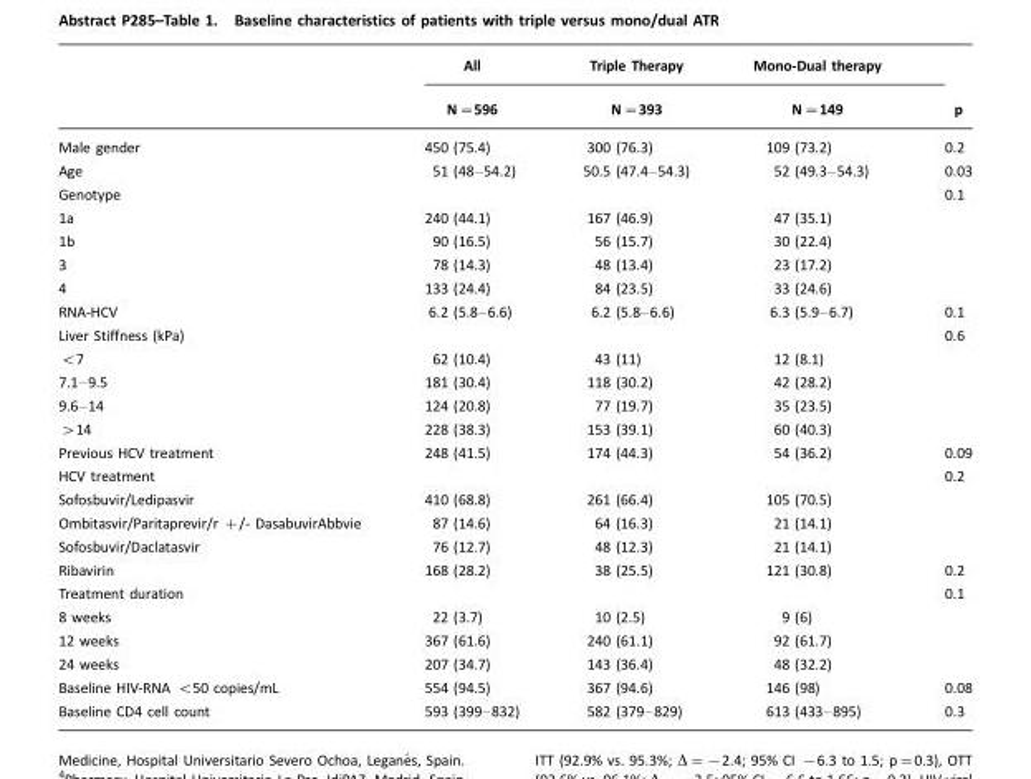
<table><thead><tr><td rowspan="2"></td><td rowspan="2">All N=596</td><td rowspan="2">Triple Therapy N=393</td><td rowspan="2">Mono-Dual therapy N=149</td><td rowspan="2">p</td></tr><tr></tr></thead><tbody><tr><td>Male gender</td><td>450 (75.4)</td><td>300 (76.3)</td><td>109 (73.2)</td><td>0.2</td></tr><tr><td>Age</td><td>51 (48–54.2)</td><td>50.5 (47.4–54.3)</td><td>52 (49.3–54.3)</td><td>0.03</td></tr><tr><td>Genotype</td><td></td><td></td><td></td><td>0.1</td></tr><tr><td>1a</td><td>240 (44.1)</td><td>167 (46.9)</td><td>47 (35.1)</td><td></td></tr><tr><td>1b</td><td>90 (16.5)</td><td>56 (15.7)</td><td>30 (22.4)</td><td></td></tr><tr><td>3</td><td>78 (14.3)</td><td>48 (13.4)</td><td>23 (17.2)</td><td></td></tr><tr><td>4</td><td>133 (24.4)</td><td>84 (23.5)</td><td>33 (24.6)</td><td></td></tr><tr><td>RNA-HCV</td><td>6.2 (5.8–6.6)</td><td>6.2 (5.8–6.6)</td><td>6.3 (5.9–6.7)</td><td>0.1</td></tr><tr><td>Liver Stiffness (kPa)</td><td></td><td></td><td></td><td>0.6</td></tr><tr><td>&lt;7</td><td>62 (10.4)</td><td>43 (11)</td><td>12 (8.1)</td><td></td></tr><tr><td>7.1–9.5</td><td>181 (30.4)</td><td>118 (30.2)</td><td>42 (28.2)</td><td></td></tr><tr><td>9.6–14</td><td>124 (20.8)</td><td>77 (19.7)</td><td>35 (23.5)</td><td></td></tr><tr><td>&gt;14</td><td>228 (38.3)</td><td>153 (39.1)</td><td>60 (40.3)</td><td></td></tr><tr><td>Previous HCV treatment</td><td>248 (41.5)</td><td>174 (44.3)</td><td>54 (36.2)</td><td>0.09</td></tr><tr><td>HCV treatment</td><td></td><td></td><td></td><td>0.2</td></tr><tr><td>Sofosbuvir/Ledipasvir</td><td>410 (68.8)</td><td>261 (66.4)</td><td>105 (70.5)</td><td></td></tr><tr><td>Ombitasvir/Paritaprevir/r +/- DasabuvirAbbvie</td><td>87 (14.6)</td><td>64 (16.3)</td><td>21 (14.1)</td><td></td></tr><tr><td>Sofosbuvir/Daclatasvir</td><td>76 (12.7)</td><td>48 (12.3)</td><td>21 (14.1)</td><td></td></tr><tr><td>Ribavirin</td><td>168 (28.2)</td><td>38 (25.5)</td><td>121 (30.8)</td><td>0.2</td></tr><tr><td>Treatment duration</td><td></td><td></td><td></td><td>0.1</td></tr><tr><td>8 weeks</td><td>22 (3.7)</td><td>10 (2.5)</td><td>9 (6)</td><td></td></tr><tr><td>12 weeks</td><td>367 (61.6)</td><td>240 (61.1)</td><td>92 (61.7)</td><td></td></tr><tr><td>24 weeks</td><td>207 (34.7)</td><td>143 (36.4)</td><td>48 (32.2)</td><td></td></tr><tr><td>Baseline HIV-RNA &lt;50 copies/mL</td><td>554 (94.5)</td><td>367 (94.6)</td><td>146 (98)</td><td>0.08</td></tr><tr><td>Baseline CD4 cell count</td><td>593 (399–832)</td><td>582 (379–829)</td><td>613 (433–895)</td><td>0.3</td></tr></tbody></table>